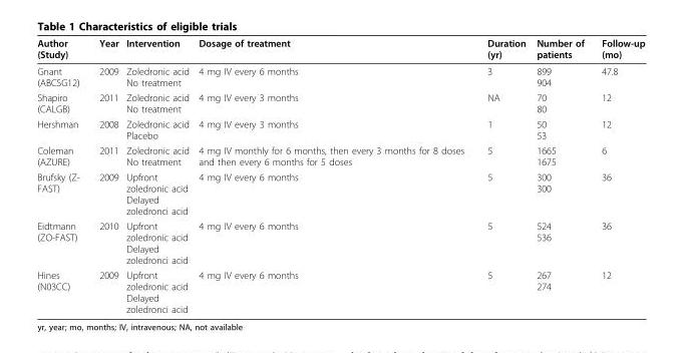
<table><thead><tr><td>Author (Study)</td><td>Year</td><td>Intervention</td><td>Dosage of treatment</td><td>Duration (yr)</td><td>Number of patients</td><td>Follow-up (mo)</td></tr></thead><tbody><tr><td>Gnant (ABCSG12)</td><td>2009</td><td>Zoledronic acid No treatment</td><td>4 mg IV every 6 months</td><td>3</td><td>899 904</td><td>47.8</td></tr><tr><td>Shapiro (CALGB)</td><td>2011</td><td>Zoledronic acid No treatment</td><td>4 mg IV every 3 months</td><td>NA</td><td>70 80</td><td>12</td></tr><tr><td>Hershman</td><td>2008</td><td>Zoledronic acid Placebo</td><td>4 mg IV every 3 months</td><td>1</td><td>50 53</td><td>12</td></tr><tr><td>Coleman (AZURE)</td><td>2011</td><td>Zoledronic acid No treatment</td><td>4 mg IV monthly for 6 months, then every 3 months for 8 doses and then every 6 months for 5 doses</td><td>5</td><td>1665 1675</td><td>6</td></tr><tr><td>Brufsky (Z- FAST)</td><td>2009</td><td>Upfront zoledronic acid Delayed zoledronci acid</td><td>4 mg IV every 6 months</td><td>5</td><td>300 300</td><td>36</td></tr><tr><td>Eidtmann (ZO-FAST)</td><td>2010</td><td>Upfront zoledronic acid Delayed zoledronci acid</td><td>4 mg IV every 6 months</td><td>5</td><td>524 536</td><td>36</td></tr><tr><td>Hines (N03CC)</td><td>2009</td><td>Upfront zoledronic acid Delayed zoledronci acid</td><td>4 mg IV every 6 months</td><td>5</td><td>267 274</td><td>12</td></tr></tbody></table>